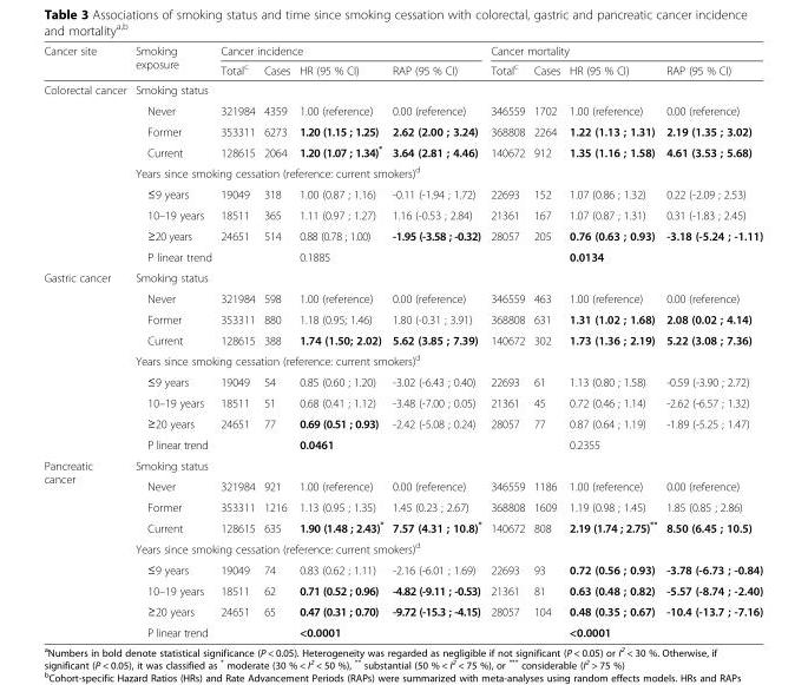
<table><thead><tr><td rowspan="2">Cancer site</td><td rowspan="2">Smoking exposure</td><td colspan="4">Cancer incidence</td><td colspan="4">Cancer mortality</td></tr><tr><td>Total<sup>c</sup></td><td>Cases</td><td>HR (95 % CI)</td><td>RAP (95 % CI)</td><td>Total<sup>c</sup></td><td>Cases</td><td>HR (95 % CI)</td><td>RAP (95 % CI)</td></tr></thead><tbody><tr><td rowspan="9">Colorectal cancer</td><td colspan="9">Smoking status</td></tr><tr><td>Never</td><td>321984</td><td>4359</td><td>1.00 (reference)</td><td>0.00 (reference)</td><td>346559</td><td>1702</td><td>1.00 (reference)</td><td>0.00 (reference)</td></tr><tr><td>Former</td><td>353311</td><td>6273</td><td>1.20 (1.15 ; 1.25)</td><td>2.62 (2.00 ; 3.24)</td><td>368808</td><td>2264</td><td>1.22 (1.13 ; 1.31)</td><td>2.19 (1.35 ; 3.02)</td></tr><tr><td>Current</td><td>128615</td><td>2064</td><td>1.20 (1.07 ; 1.34)*</td><td>3.64 (2.81 ; 4.46)</td><td>140672</td><td>912</td><td>1.35 (1.16 ; 1.58)</td><td>4.61 (3.53 ; 5.68)</td></tr><tr><td colspan="9">Years since smoking cessation (reference: current smokers)<sup>d</sup></td></tr><tr><td>≤9 years</td><td>19049</td><td>318</td><td>1.00 (0.87 ; 1.16)</td><td>-0.11 (-1.94 ; 1.72)</td><td>22693</td><td>152</td><td>1.07 (0.86 ; 1.32)</td><td>0.22 (-2.09 ; 2.53)</td></tr><tr><td>10–19 years</td><td>18511</td><td>365</td><td>1.11 (0.97 ; 1.27)</td><td>1.16 (-0.53 ; 2.84)</td><td>21361</td><td>167</td><td>1.07 (0.87 ; 1.31)</td><td>0.31 (-1.83 ; 2.45)</td></tr><tr><td>≥20 years</td><td>24651</td><td>514</td><td>0.88 (0.78 ; 1.00)</td><td>-1.95 (-3.58 ; -0.32)</td><td>28057</td><td>205</td><td>0.76 (0.63 ; 0.93)</td><td>-3.18 (-5.24 ; -1.11)</td></tr><tr><td>P linear trend</td><td></td><td></td><td>0.1885</td><td></td><td></td><td></td><td>0.0134</td><td></td></tr><tr><td rowspan="9">Gastric cancer</td><td colspan="9">Smoking status</td></tr><tr><td>Never</td><td>321984</td><td>598</td><td>1.00 (reference)</td><td>0.00 (reference)</td><td>346559</td><td>463</td><td>1.00 (reference)</td><td>0.00 (reference)</td></tr><tr><td>Former</td><td>353311</td><td>880</td><td>1.18 (0.95; 1.46)</td><td>1.80 (-0.31 ; 3.91)</td><td>368808</td><td>631</td><td>1.31 (1.02 ; 1.68)</td><td>2.08 (0.02 ; 4.14)</td></tr><tr><td>Current</td><td>128615</td><td>388</td><td>1.74 (1.50; 2.02)</td><td>5.62 (3.85 ; 7.39)</td><td>140672</td><td>302</td><td>1.73 (1.36 ; 2.19)</td><td>5.22 (3.08 ; 7.36)</td></tr><tr><td colspan="9">Years since smoking cessation (reference: current smokers)<sup>d</sup></td></tr><tr><td>≤9 years</td><td>19049</td><td>54</td><td>0.85 (0.60 ; 1.20)</td><td>-3.02 (-6.43 ; 0.40)</td><td>22693</td><td>61</td><td>1.13 (0.80 ; 1.58)</td><td>-0.59 (-3.90 ; 2.72)</td></tr><tr><td>10–19 years</td><td>18511</td><td>51</td><td>0.68 (0.41 ; 1.12)</td><td>-3.48 (-7.00 ; 0.05)</td><td>21361</td><td>45</td><td>0.72 (0.46 ; 1.14)</td><td>-2.62 (-6.57 ; 1.32)</td></tr><tr><td>≥20 years</td><td>24651</td><td>77</td><td>0.69 (0.51 ; 0.93)</td><td>-2.42 (-5.08 ; 0.24)</td><td>28057</td><td>77</td><td>0.87 (0.64 ; 1.19)</td><td>-1.89 (-5.25 ; 1.47)</td></tr><tr><td>P linear trend</td><td></td><td></td><td>0.0461</td><td></td><td></td><td></td><td>0.2355</td><td></td></tr><tr><td rowspan="9">Pancreatic cancer</td><td colspan="9">Smoking status</td></tr><tr><td>Never</td><td>321984</td><td>921</td><td>1.00 (reference)</td><td>0.00 (reference)</td><td>346559</td><td>1186</td><td>1.00 (reference)</td><td>0.00 (reference)</td></tr><tr><td>Former</td><td>353311</td><td>1216</td><td>1.13 (0.95 ; 1.35)</td><td>1.45 (0.23 ; 2.67)</td><td>368808</td><td>1609</td><td>1.19 (0.98 ; 1.45)</td><td>1.85 (0.85 ; 2.86)</td></tr><tr><td>Current</td><td>128615</td><td>635</td><td>1.90 (1.48 ; 2.43)*</td><td>7.57 (4.31 ; 10.8)*</td><td>140672</td><td>808</td><td>2.19 (1.74 ; 2.75)**</td><td>8.50 (6.45 ; 10.5)</td></tr><tr><td colspan="9">Years since smoking cessation (reference: current smokers)<sup>d</sup></td></tr><tr><td>≤9 years</td><td>19049</td><td>74</td><td>0.83 (0.62 ; 1.11)</td><td>-2.16 (-6.01 ; 1.69)</td><td>22693</td><td>93</td><td>0.72 (0.56 ; 0.93)</td><td>-3.78 (-6.73 ; -0.84)</td></tr><tr><td>10–19 years</td><td>18511</td><td>62</td><td>0.71 (0.52 ; 0.96)</td><td>-4.82 (-9.11 ; -0.53)</td><td>21361</td><td>81</td><td>0.63 (0.48 ; 0.82)</td><td>-5.57 (-8.74 ; -2.40)</td></tr><tr><td>≥20 years</td><td>24651</td><td>65</td><td>0.47 (0.31 ; 0.70)</td><td>-9.72 (-15.3 ; -4.15)</td><td>28057</td><td>104</td><td>0.48 (0.35 ; 0.67)</td><td>-10.4 (-13.7 ; -7.16)</td></tr><tr><td>P linear trend</td><td></td><td></td><td>&lt;0.0001</td><td></td><td></td><td></td><td>&lt;0.0001</td><td></td></tr></tbody></table>